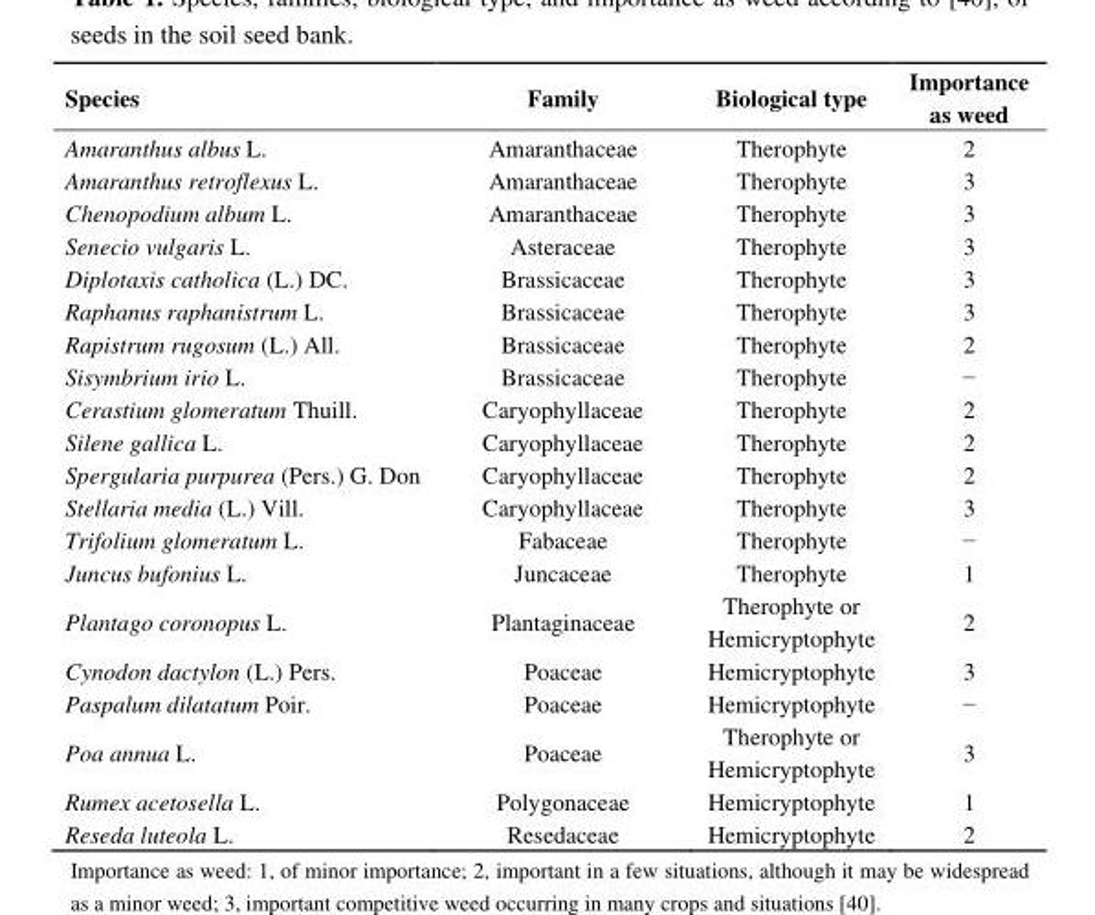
<table><thead><tr><td>Species</td><td>Family</td><td>Biological type</td><td>Importance as weed</td></tr></thead><tbody><tr><td>Amaranthus albus L.</td><td>Amaranthaceae</td><td>Therophyte</td><td>2</td></tr><tr><td>Amaranthus retroflexus L.</td><td>Amaranthaceae</td><td>Therophyte</td><td>3</td></tr><tr><td>Chenopodium album L.</td><td>Amaranthaceae</td><td>Therophyte</td><td>3</td></tr><tr><td>Senecio vulgaris L.</td><td>Asteraceae</td><td>Therophyte</td><td>3</td></tr><tr><td>Diplotaxis catholica (L.) DC.</td><td>Brassicaceae</td><td>Therophyte</td><td>3</td></tr><tr><td>Raphanus raphanistrum L.</td><td>Brassicaceae</td><td>Therophyte</td><td>3</td></tr><tr><td>Rapistrum rugosum (L.) All.</td><td>Brassicaceae</td><td>Therophyte</td><td>2</td></tr><tr><td>Sisymbrium irio L.</td><td>Brassicaceae</td><td>Therophyte</td><td>−</td></tr><tr><td>Cerastium glomeratum Thuill.</td><td>Caryophyllaceae</td><td>Therophyte</td><td>2</td></tr><tr><td>Silene gallica L.</td><td>Caryophyllaceae</td><td>Therophyte</td><td>2</td></tr><tr><td>Spergularia purpurea (Pers.) G. Don</td><td>Caryophyllaceae</td><td>Therophyte</td><td>2</td></tr><tr><td>Stellaria media (L.) Vill.</td><td>Caryophyllaceae</td><td>Therophyte</td><td>3</td></tr><tr><td>Trifolium glomeratum L.</td><td>Fabaceae</td><td>Therophyte</td><td>−</td></tr><tr><td>Juncus bufonius L.</td><td>Juncaceae</td><td>Therophyte</td><td>1</td></tr><tr><td>Plantago coronopus L.</td><td>Plantaginaceae</td><td>Therophyte or Hemicryptophyte</td><td>2</td></tr><tr><td>Cynodon dactylon (L.) Pers.</td><td>Poaceae</td><td>Hemicryptophyte</td><td>3</td></tr><tr><td>Paspalum dilatatum Poir.</td><td>Poaceae</td><td>Hemicryptophyte</td><td>−</td></tr><tr><td>Poa annua L.</td><td>Poaceae</td><td>Therophyte or Hemicryptophyte</td><td>3</td></tr><tr><td>Rumex acetosella L.</td><td>Polygonaceae</td><td>Hemicryptophyte</td><td>1</td></tr><tr><td>Reseda luteola L.</td><td>Resedaceae</td><td>Hemicryptophyte</td><td>2</td></tr></tbody></table>